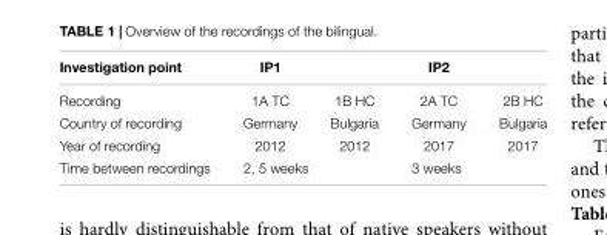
<table><thead><tr><td>Investigation point</td><td>IP1</td><td></td><td>IP2</td><td></td></tr></thead><tbody><tr><td>Recording</td><td>1A TC</td><td>1B HC</td><td>2A TC</td><td>2B HC</td></tr><tr><td>Country of recording</td><td>Germany</td><td>Bulgaria</td><td>Germany</td><td>Bulgaria</td></tr><tr><td>Year of recording</td><td>2012</td><td>2012</td><td>2017</td><td>2017</td></tr><tr><td>Time between recordings</td><td colspan="2">2, 5 weeks</td><td colspan="2">3 weeks</td></tr></tbody></table>